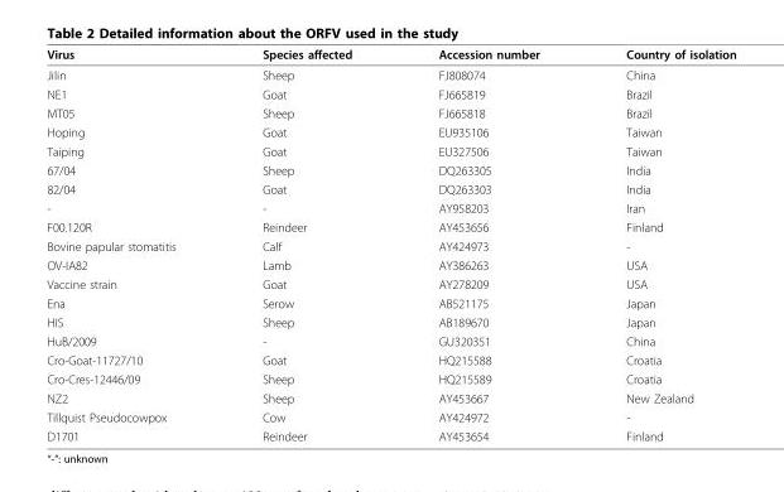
<table><thead><tr><td>Virus</td><td>Species affected</td><td>Accession number</td><td>Country of isolation</td></tr></thead><tbody><tr><td>Jilin</td><td>Sheep</td><td>FJ808074</td><td>China</td></tr><tr><td>NE1</td><td>Goat</td><td>FJ665819</td><td>Brazil</td></tr><tr><td>MT05</td><td>Sheep</td><td>FJ665818</td><td>Brazil</td></tr><tr><td>Hoping</td><td>Goat</td><td>EU935106</td><td>Taiwan</td></tr><tr><td>Taiping</td><td>Goat</td><td>EU327506</td><td>Taiwan</td></tr><tr><td>67/04</td><td>Sheep</td><td>DQ263305</td><td>India</td></tr><tr><td>82/04</td><td>Goat</td><td>DQ263303</td><td>India</td></tr><tr><td>-</td><td>-</td><td>AY958203</td><td>Iran</td></tr><tr><td>F00.120R</td><td>Reindeer</td><td>AY453656</td><td>Finland</td></tr><tr><td>Bovine papular stomatitis</td><td>Calf</td><td>AY424973</td><td>-</td></tr><tr><td>OV-IA82</td><td>Lamb</td><td>AY386263</td><td>USA</td></tr><tr><td>Vaccine strain</td><td>Goat</td><td>AY278209</td><td>USA</td></tr><tr><td>Ena</td><td>Serow</td><td>AB521175</td><td>Japan</td></tr><tr><td>HIS</td><td>Sheep</td><td>AB189670</td><td>Japan</td></tr><tr><td>HuB/2009</td><td>-</td><td>GU320351</td><td>China</td></tr><tr><td>Cro-Goat-11727/10</td><td>Goat</td><td>HQ215588</td><td>Croatia</td></tr><tr><td>Cro-Cres-12446/09</td><td>Sheep</td><td>HQ215589</td><td>Croatia</td></tr><tr><td>NZ2</td><td>Sheep</td><td>AY453667</td><td>New Zealand</td></tr><tr><td>Tillquist Pseudocowpox</td><td>Cow</td><td>AY424972</td><td>-</td></tr><tr><td>D1701</td><td>Reindeer</td><td>AY453654</td><td>Finland</td></tr></tbody></table>